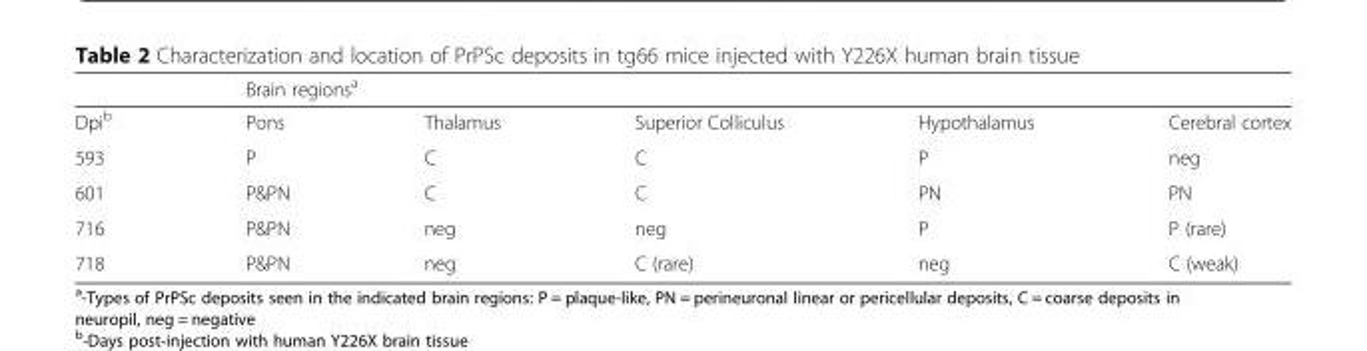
<table><thead><tr><td rowspan="2">Dpi<sup>b</sup></td><td colspan="5">Brain regions<sup>a</sup></td></tr><tr><td>Pons</td><td>Thalamus</td><td>Superior Colliculus</td><td>Hypothalamus</td><td>Cerebral cortex</td></tr></thead><tbody><tr><td>593</td><td>P</td><td>C</td><td>C</td><td>P</td><td>neg</td></tr><tr><td>601</td><td>P&amp;PN</td><td>C</td><td>C</td><td>PN</td><td>PN</td></tr><tr><td>716</td><td>P&amp;PN</td><td>neg</td><td>neg</td><td>P</td><td>P (rare)</td></tr><tr><td>718</td><td>P&amp;PN</td><td>neg</td><td>C (rare)</td><td>neg</td><td>C (weak)</td></tr></tbody></table>